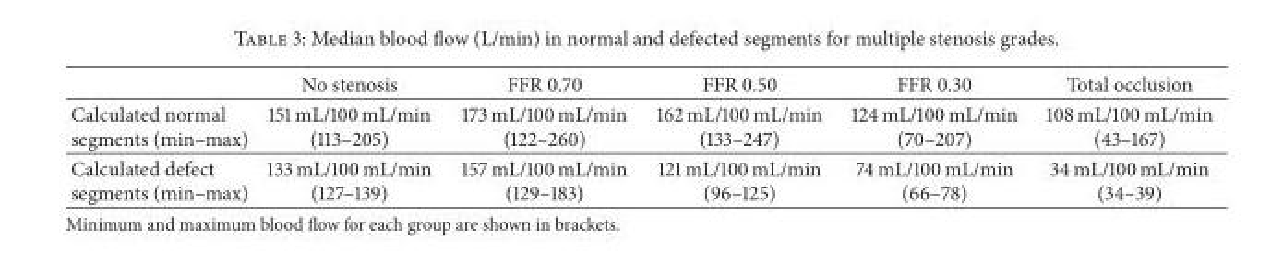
<table><thead><tr><td></td><td>No stenosis</td><td>FFR 0.70</td><td>FFR 0.50</td><td>FFR 0.30</td><td>Total occlusion</td></tr></thead><tbody><tr><td>Calculated normal segments (min–max)</td><td>151 mL/100 mL/min (113–205)</td><td>173 mL/100 mL/min (122–260)</td><td>162 mL/100 mL/min (133–247)</td><td>124 mL/100 mL/min (70–207)</td><td>108 mL/100 mL/min (43–167)</td></tr><tr><td>Calculated defect segments (min–max)</td><td>133 mL/100 mL/min (127–139)</td><td>157 mL/100 mL/min (129–183)</td><td>121 mL/100 mL/min (96–125)</td><td>74 mL/100 mL/min (66–78)</td><td>34 mL/100 mL/min (34–39)</td></tr></tbody></table>